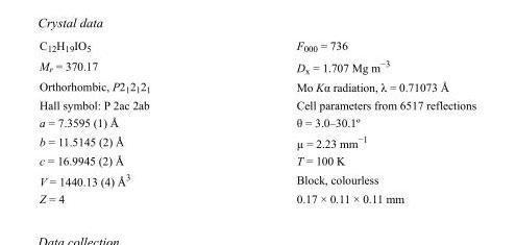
<table><tbody><tr><td>C<sub>12</sub>H<sub>19</sub>IO<sub>5</sub></td><td>F000 = 736</td></tr><tr><td>M<sub>r</sub> = 370.17</td><td>D<sub>x</sub> = 1.707 Mg m<sup>−3</sup></td></tr><tr><td>Orthorhombic, P2<sub>1</sub>2<sub>1</sub>2<sub>1</sub></td><td>Mo Kα radiation, λ = 0.71073 Å</td></tr><tr><td>Hall symbol: P 2ac 2ab</td><td>Cell parameters from 6517 reflections</td></tr><tr><td>a = 7.3595 (1) Å</td><td>θ = 3.0–30.1º</td></tr><tr><td>b = 11.5145 (2) Å</td><td>µ = 2.23 mm<sup>−1</sup></td></tr><tr><td>c = 16.9945 (2) Å</td><td>T = 100 K</td></tr><tr><td>V = 1440.13 (4) Å<sup>3</sup></td><td>Block, colourless</td></tr><tr><td>Z = 4</td><td>0.17 × 0.11 × 0.11 mm</td></tr></tbody></table>